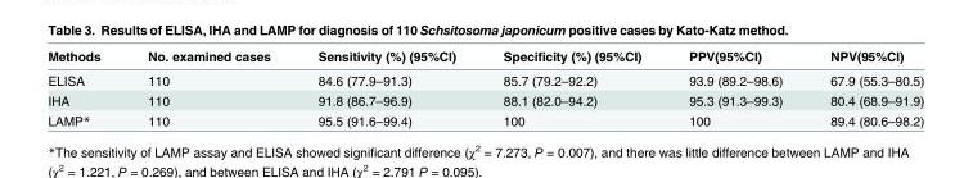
<table><thead><tr><td>Methods</td><td>No. examined cases</td><td>Sensitivity (%) (95%CI)</td><td>Specificity (%) (95%CI)</td><td>PPV(95%CI)</td><td>NPV(95%CI)</td></tr></thead><tbody><tr><td>ELISA</td><td>110</td><td>84.6 (77.9–91.3)</td><td>85.7 (79.2–92.2)</td><td>93.9 (89.2–98.6)</td><td>67.9 (55.3–80.5)</td></tr><tr><td>IHA</td><td>110</td><td>91.8 (86.7–96.9)</td><td>88.1 (82.0–94.2)</td><td>95.3 (91.3–99.3)</td><td>80.4 (68.9–91.9)</td></tr><tr><td>LAMP*</td><td>110</td><td>95.5 (91.6–99.4)</td><td>100</td><td>100</td><td>89.4 (80.6–98.2)</td></tr></tbody></table>